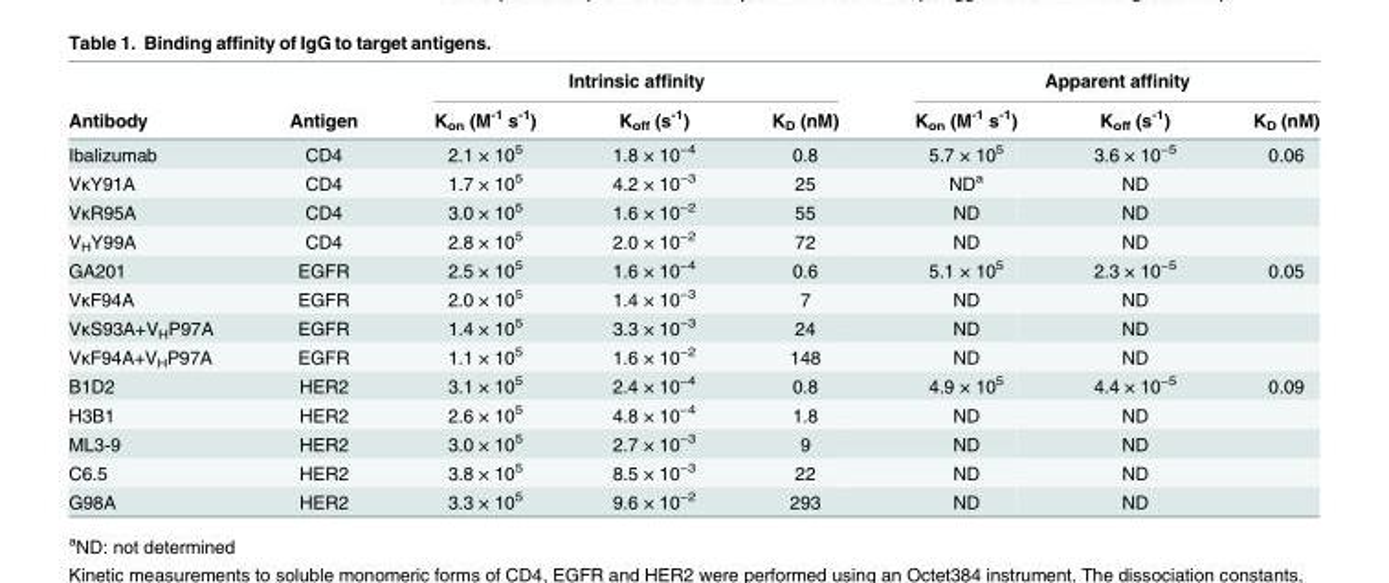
<table><thead><tr><td rowspan="2">Antibody</td><td rowspan="2">Antigen</td><td colspan="3">Intrinsic affinity</td><td colspan="3">Apparent affinity</td></tr><tr><td>K<sub>on</sub> (M<sup>-1</sup> s<sup>-1</sup>)</td><td>K<sub>off</sub> (s<sup>-1</sup>)</td><td>K<sub>D</sub> (nM)</td><td>K<sub>on</sub> (M<sup>-1</sup> s<sup>-1</sup>)</td><td>K<sub>off</sub> (s<sup>-1</sup>)</td><td>K<sub>D</sub> (nM)</td></tr></thead><tbody><tr><td>Ibalizumab</td><td>CD4</td><td>2.1 × 10<sup>5</sup></td><td>1.8 × 10<sup>−4</sup></td><td>0.8</td><td>5.7 × 10<sup>5</sup></td><td>3.6 × 10<sup>−5</sup></td><td>0.06</td></tr><tr><td>VκY91A</td><td>CD4</td><td>1.7 × 10<sup>5</sup></td><td>4.2 × 10<sup>−3</sup></td><td>25</td><td>ND<sup>a</sup></td><td>ND</td><td></td></tr><tr><td>VκR95A</td><td>CD4</td><td>3.0 × 10<sup>5</sup></td><td>1.6 × 10<sup>−2</sup></td><td>55</td><td>ND</td><td>ND</td><td></td></tr><tr><td>V<sub>H</sub>Y99A</td><td>CD4</td><td>2.8 × 10<sup>5</sup></td><td>2.0 × 10<sup>−2</sup></td><td>72</td><td>ND</td><td>ND</td><td></td></tr><tr><td>GA201</td><td>EGFR</td><td>2.5 × 10<sup>5</sup></td><td>1.6 × 10<sup>−4</sup></td><td>0.6</td><td>5.1 × 10<sup>5</sup></td><td>2.3 × 10<sup>−5</sup></td><td>0.05</td></tr><tr><td>VκF94A</td><td>EGFR</td><td>2.0 × 10<sup>5</sup></td><td>1.4 × 10<sup>−3</sup></td><td>7</td><td>ND</td><td>ND</td><td></td></tr><tr><td>VκS93A+V<sub>H</sub>P97A</td><td>EGFR</td><td>1.4 × 10<sup>5</sup></td><td>3.3 × 10<sup>−3</sup></td><td>24</td><td>ND</td><td>ND</td><td></td></tr><tr><td>VκF94A+V<sub>H</sub>P97A</td><td>EGFR</td><td>1.1 × 10<sup>5</sup></td><td>1.6 × 10<sup>−2</sup></td><td>148</td><td>ND</td><td>ND</td><td></td></tr><tr><td>B1D2</td><td>HER2</td><td>3.1 × 10<sup>5</sup></td><td>2.4 × 10<sup>−4</sup></td><td>0.8</td><td>4.9 × 10<sup>5</sup></td><td>4.4 × 10<sup>−5</sup></td><td>0.09</td></tr><tr><td>H3B1</td><td>HER2</td><td>2.6 × 10<sup>5</sup></td><td>4.8 × 10<sup>−4</sup></td><td>1.8</td><td>ND</td><td>ND</td><td></td></tr><tr><td>ML3-9</td><td>HER2</td><td>3.0 × 10<sup>5</sup></td><td>2.7 × 10<sup>−3</sup></td><td>9</td><td>ND</td><td>ND</td><td></td></tr><tr><td>C6.5</td><td>HER2</td><td>3.8 × 10<sup>5</sup></td><td>8.5 × 10<sup>−3</sup></td><td>22</td><td>ND</td><td>ND</td><td></td></tr><tr><td>G98A</td><td>HER2</td><td>3.3 × 10<sup>5</sup></td><td>9.6 × 10<sup>−2</sup></td><td>293</td><td>ND</td><td>ND</td><td></td></tr></tbody></table>